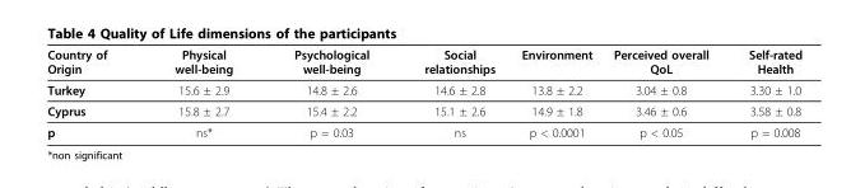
<table><thead><tr><td>Country of Origin</td><td>Physical well-being</td><td>Psychological well-being</td><td>Social relationships</td><td>Environment</td><td>Perceived overall QoL</td><td>Self-rated Health</td></tr></thead><tbody><tr><td>Turkey</td><td>15.6 ± 2.9</td><td>14.8 ± 2.6</td><td>14.6 ± 2.8</td><td>13.8 ± 2.2</td><td>3.04 ± 0.8</td><td>3.30 ± 1.0</td></tr><tr><td>Cyprus</td><td>15.8 ± 2.7</td><td>15.4 ± 2.2</td><td>15.1 ± 2.6</td><td>14.9 ± 1.8</td><td>3.46 ± 0.6</td><td>3.58 ± 0.8</td></tr><tr><td>p</td><td>ns*</td><td>p = 0.03</td><td>ns</td><td>p &lt; 0.0001</td><td>p &lt; 0.05</td><td>p = 0.008</td></tr></tbody></table>